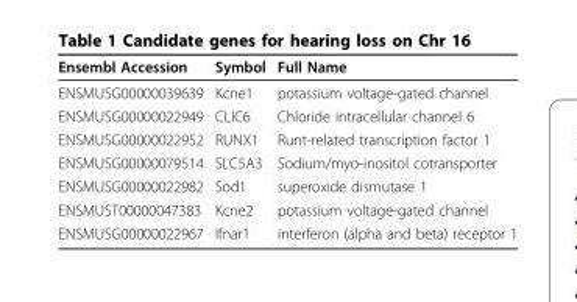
<table><thead><tr><td>Ensembl Accession</td><td>Symbol</td><td>Full Name</td></tr></thead><tbody><tr><td>ENSMUSG00000039639</td><td>Kcne1</td><td>potassium voltage-gated channel</td></tr><tr><td>ENSMUSG00000022949</td><td>CLIC6</td><td>Chloride intracellular channel 6</td></tr><tr><td>ENSMUSG00000022952</td><td>RUNX1</td><td>Runt-related transcription factor 1</td></tr><tr><td>ENSMUSG00000079514</td><td>SLC5A3</td><td>Sodium/myo-inositol cotransporter</td></tr><tr><td>ENSMUSG00000022982</td><td>Sod1</td><td>superoxide dismutase 1</td></tr><tr><td>ENSMUST00000047383</td><td>Kcne2</td><td>potassium voltage-gated channel</td></tr><tr><td>ENSMUSG00000022967</td><td>Ifnar1</td><td>interferon (alpha and beta) receptor 1</td></tr></tbody></table>